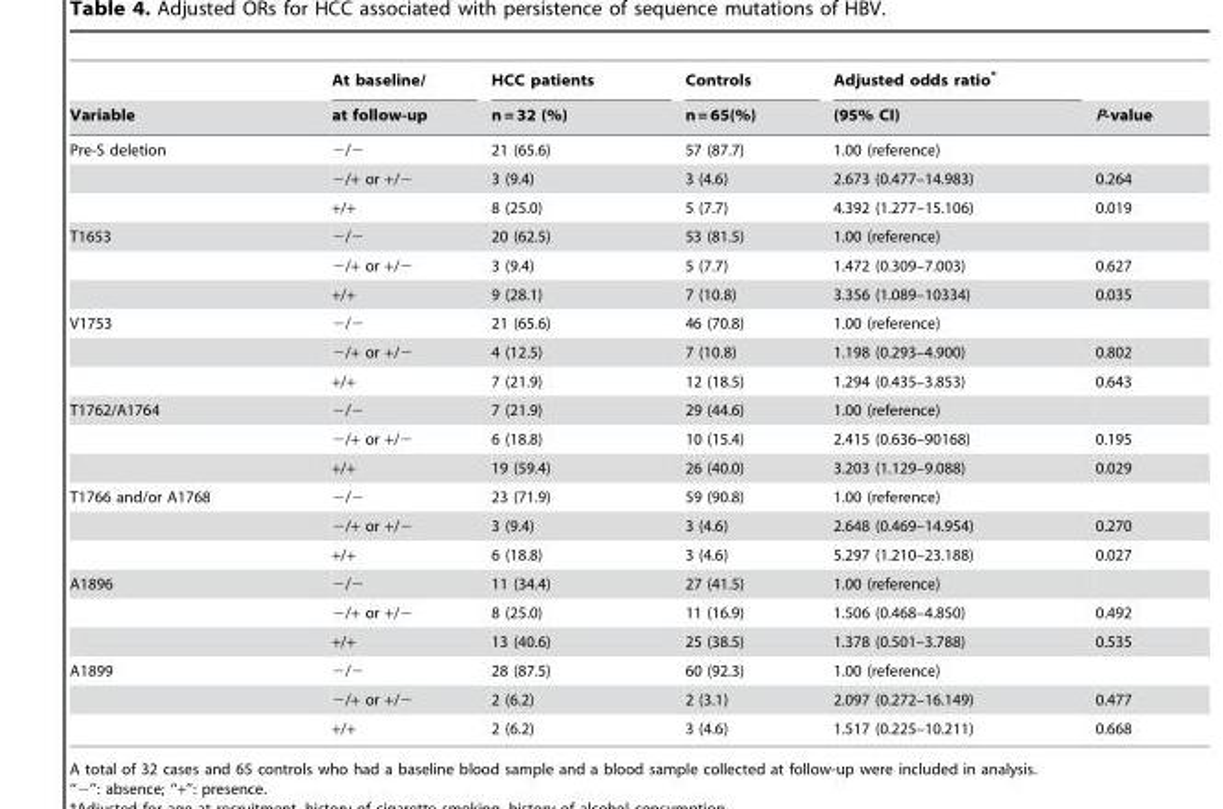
<table><thead><tr><td rowspan="2">Variable</td><td rowspan="2">At baseline/ at follow-up</td><td rowspan="2">HCC patients n = 32 (%)</td><td rowspan="2">Controls n = 65(%)</td><td rowspan="2">Adjusted odds ratio* (95% CI)</td><td rowspan="2">P-value</td></tr><tr></tr></thead><tbody><tr><td rowspan="3">Pre-S deletion</td><td>−/−</td><td>21 (65.6)</td><td>57 (87.7)</td><td>1.00 (reference)</td><td></td></tr><tr><td>−/+ or +/−</td><td>3 (9.4)</td><td>3 (4.6)</td><td>2.673 (0.477–14.983)</td><td>0.264</td></tr><tr><td>+/+</td><td>8 (25.0)</td><td>5 (7.7)</td><td>4.392 (1.277–15.106)</td><td>0.019</td></tr><tr><td rowspan="3">T1653</td><td>−/−</td><td>20 (62.5)</td><td>53 (81.5)</td><td>1.00 (reference)</td><td></td></tr><tr><td>−/+ or +/−</td><td>3 (9.4)</td><td>5 (7.7)</td><td>1.472 (0.309–7.003)</td><td>0.627</td></tr><tr><td>+/+</td><td>9 (28.1)</td><td>7 (10.8)</td><td>3.356 (1.089–10334)</td><td>0.035</td></tr><tr><td rowspan="3">V1753</td><td>−/−</td><td>21 (65.6)</td><td>46 (70.8)</td><td>1.00 (reference)</td><td></td></tr><tr><td>−/+ or +/−</td><td>4 (12.5)</td><td>7 (10.8)</td><td>1.198 (0.293–4.900)</td><td>0.802</td></tr><tr><td>+/+</td><td>7 (21.9)</td><td>12 (18.5)</td><td>1.294 (0.435–3.853)</td><td>0.643</td></tr><tr><td rowspan="3">T1762/A1764</td><td>−/−</td><td>7 (21.9)</td><td>29 (44.6)</td><td>1.00 (reference)</td><td></td></tr><tr><td>−/+ or +/−</td><td>6 (18.8)</td><td>10 (15.4)</td><td>2.415 (0.636–90168)</td><td>0.195</td></tr><tr><td>+/+</td><td>19 (59.4)</td><td>26 (40.0)</td><td>3.203 (1.129–9.088)</td><td>0.029</td></tr><tr><td rowspan="3">T1766 and/or A1768</td><td>−/−</td><td>23 (71.9)</td><td>59 (90.8)</td><td>1.00 (reference)</td><td></td></tr><tr><td>−/+ or +/−</td><td>3 (9.4)</td><td>3 (4.6)</td><td>2.648 (0.469–14.954)</td><td>0.270</td></tr><tr><td>+/+</td><td>6 (18.8)</td><td>3 (4.6)</td><td>5.297 (1.210–23.188)</td><td>0.027</td></tr><tr><td rowspan="3">A1896</td><td>−/−</td><td>11 (34.4)</td><td>27 (41.5)</td><td>1.00 (reference)</td><td></td></tr><tr><td>−/+ or +/−</td><td>8 (25.0)</td><td>11 (16.9)</td><td>1.506 (0.468–4.850)</td><td>0.492</td></tr><tr><td>+/+</td><td>13 (40.6)</td><td>25 (38.5)</td><td>1.378 (0.501–3.788)</td><td>0.535</td></tr><tr><td rowspan="3">A1899</td><td>−/−</td><td>28 (87.5)</td><td>60 (92.3)</td><td>1.00 (reference)</td><td></td></tr><tr><td>−/+ or +/−</td><td>2 (6.2)</td><td>2 (3.1)</td><td>2.097 (0.272–16.149)</td><td>0.477</td></tr><tr><td>+/+</td><td>2 (6.2)</td><td>3 (4.6)</td><td>1.517 (0.225–10.211)</td><td>0.668</td></tr></tbody></table>